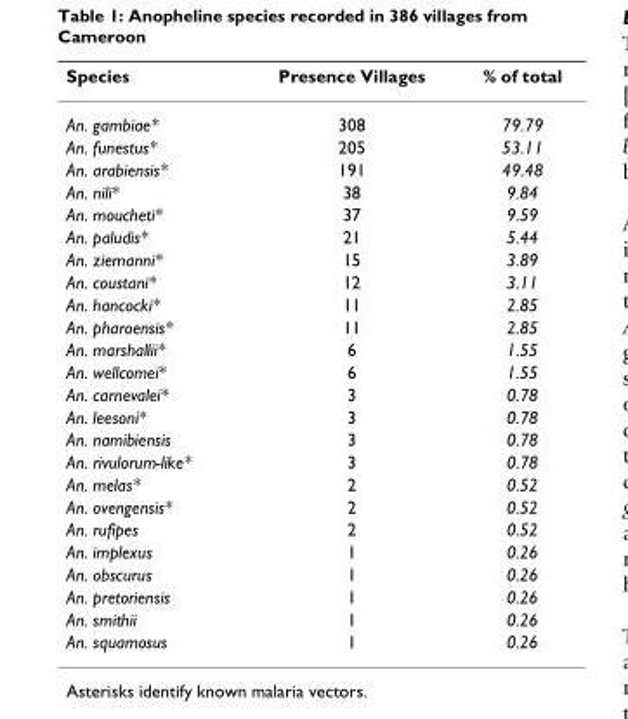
<table><thead><tr><td>Species</td><td>Presence Villages</td><td>% of total</td></tr></thead><tbody><tr><td>An. gambiae*</td><td>308</td><td>79.79</td></tr><tr><td>An. funestus*</td><td>205</td><td>53.11</td></tr><tr><td>An. arabiensis*</td><td>191</td><td>49.48</td></tr><tr><td>An. nili*</td><td>38</td><td>9.84</td></tr><tr><td>An. moucheti*</td><td>37</td><td>9.59</td></tr><tr><td>An. paludis*</td><td>21</td><td>5.44</td></tr><tr><td>An. ziemanni*</td><td>15</td><td>3.89</td></tr><tr><td>An. coustani*</td><td>12</td><td>3.11</td></tr><tr><td>An. hancocki*</td><td>11</td><td>2.85</td></tr><tr><td>An. pharoensis*</td><td>11</td><td>2.85</td></tr><tr><td>An. marshallii*</td><td>6</td><td>1.55</td></tr><tr><td>An. wellcomei*</td><td>6</td><td>1.55</td></tr><tr><td>An. carnevalei*</td><td>3</td><td>0.78</td></tr><tr><td>An. leesoni*</td><td>3</td><td>0.78</td></tr><tr><td>An. namibiensis</td><td>3</td><td>0.78</td></tr><tr><td>An. rivulorum-like*</td><td>3</td><td>0.78</td></tr><tr><td>An. melas*</td><td>2</td><td>0.52</td></tr><tr><td>An. ovengensis*</td><td>2</td><td>0.52</td></tr><tr><td>An. rufipes</td><td>2</td><td>0.52</td></tr><tr><td>An. implexus</td><td>1</td><td>0.26</td></tr><tr><td>An. obscurus</td><td>1</td><td>0.26</td></tr><tr><td>An. pretoriensis</td><td>1</td><td>0.26</td></tr><tr><td>An. smithii</td><td>1</td><td>0.26</td></tr><tr><td>An. squamosus</td><td>1</td><td>0.26</td></tr></tbody></table>